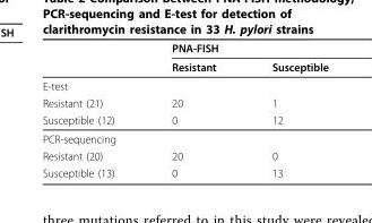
<table><thead><tr><td rowspan="2"></td><td colspan="2">PNA-FISH</td></tr><tr><td>Resistant</td><td>Susceptible</td></tr></thead><tbody><tr><td colspan="3">E-test</td></tr><tr><td>Resistant (21)</td><td>20</td><td>1</td></tr><tr><td>Susceptible (12)</td><td>0</td><td>12</td></tr><tr><td colspan="3">PCR-sequencing</td></tr><tr><td>Resistant (20)</td><td>20</td><td>0</td></tr><tr><td>Susceptible (13)</td><td>0</td><td>13</td></tr></tbody></table>